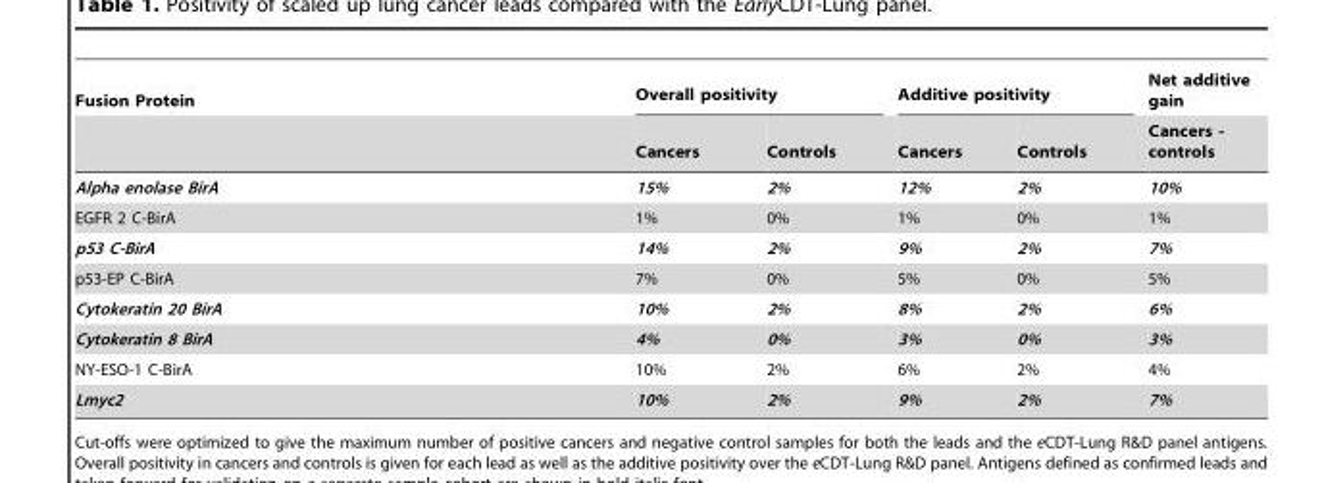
<table><thead><tr><td rowspan="2">Fusion Protein</td><td colspan="2">Overall positivity</td><td colspan="2">Additive positivity</td><td rowspan="2">Net additive gain Cancers - controls</td></tr><tr><td>Cancers</td><td>Controls</td><td>Cancers</td><td>Controls</td></tr></thead><tbody><tr><td>Alpha enolase BirA</td><td>15%</td><td>2%</td><td>12%</td><td>2%</td><td>10%</td></tr><tr><td>EGFR 2 C-BirA</td><td>1%</td><td>0%</td><td>1%</td><td>0%</td><td>1%</td></tr><tr><td>p53 C-BirA</td><td>14%</td><td>2%</td><td>9%</td><td>2%</td><td>7%</td></tr><tr><td>p53-EP C-BirA</td><td>7%</td><td>0%</td><td>5%</td><td>0%</td><td>5%</td></tr><tr><td>Cytokeratin 20 BirA</td><td>10%</td><td>2%</td><td>8%</td><td>2%</td><td>6%</td></tr><tr><td>Cytokeratin 8 BirA</td><td>4%</td><td>0%</td><td>3%</td><td>0%</td><td>3%</td></tr><tr><td>NY-ESO-1 C-BirA</td><td>10%</td><td>2%</td><td>6%</td><td>2%</td><td>4%</td></tr><tr><td>Lmyc2</td><td>10%</td><td>2%</td><td>9%</td><td>2%</td><td>7%</td></tr></tbody></table>